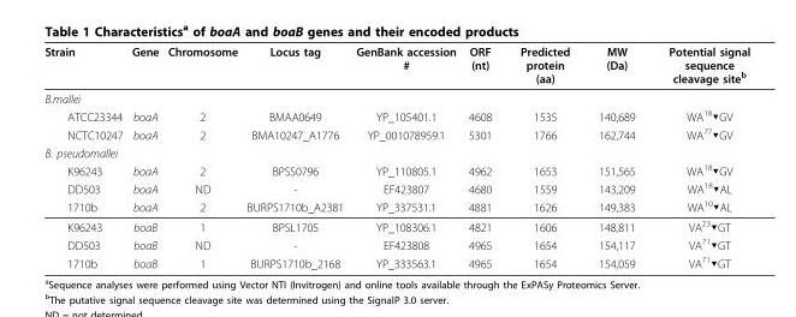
<table><thead><tr><td>Strain</td><td>Gene</td><td>Chromosome</td><td>Locus tag</td><td>GenBank accession #</td><td>ORF (nt)</td><td>Predicted protein (aa)</td><td>MW (Da)</td><td>Potential signal sequence cleavage site<sup>b</sup></td></tr></thead><tbody><tr><td colspan="9">B.mallei</td></tr><tr><td>ATCC23344</td><td>boaA</td><td>2</td><td>BMAA0649</td><td>YP_105401.1</td><td>4608</td><td>1535</td><td>140,689</td><td>WA<sup>18</sup>▼GV</td></tr><tr><td>NCTC10247</td><td>boaA</td><td>2</td><td>BMA10247_A1776</td><td>YP_001078959.1</td><td>5301</td><td>1766</td><td>162,744</td><td>WA<sup>77</sup>▼GV</td></tr><tr><td colspan="9">B. pseudomallei</td></tr><tr><td>K96243</td><td>boaA</td><td>2</td><td>BPSS0796</td><td>YP_110805.1</td><td>4962</td><td>1653</td><td>151,565</td><td>WA<sup>18</sup>▼GV</td></tr><tr><td>DD503</td><td>boaA</td><td>ND</td><td>-</td><td>EF423807</td><td>4680</td><td>1559</td><td>143,209</td><td>WA<sup>18</sup>▼AL</td></tr><tr><td>1710b</td><td>boaA</td><td>2</td><td>BURPS1710b_A2381</td><td>YP_337531.1</td><td>4881</td><td>1626</td><td>149,383</td><td>WA<sup>10</sup>▼AL</td></tr><tr><td>K96243</td><td>boaB</td><td>1</td><td>BPSL1705</td><td>YP_108306.1</td><td>4821</td><td>1606</td><td>148,811</td><td>VA<sup>23</sup>▼GT</td></tr><tr><td>DD503</td><td>boaB</td><td>ND</td><td>-</td><td>EF423808</td><td>4965</td><td>1654</td><td>154,117</td><td>VA<sup>71</sup>▼GT</td></tr><tr><td>1710b</td><td>boaB</td><td>1</td><td>BURPS1710b_2168</td><td>YP_333563.1</td><td>4965</td><td>1654</td><td>154,059</td><td>VA<sup>71</sup>▼GT</td></tr></tbody></table>